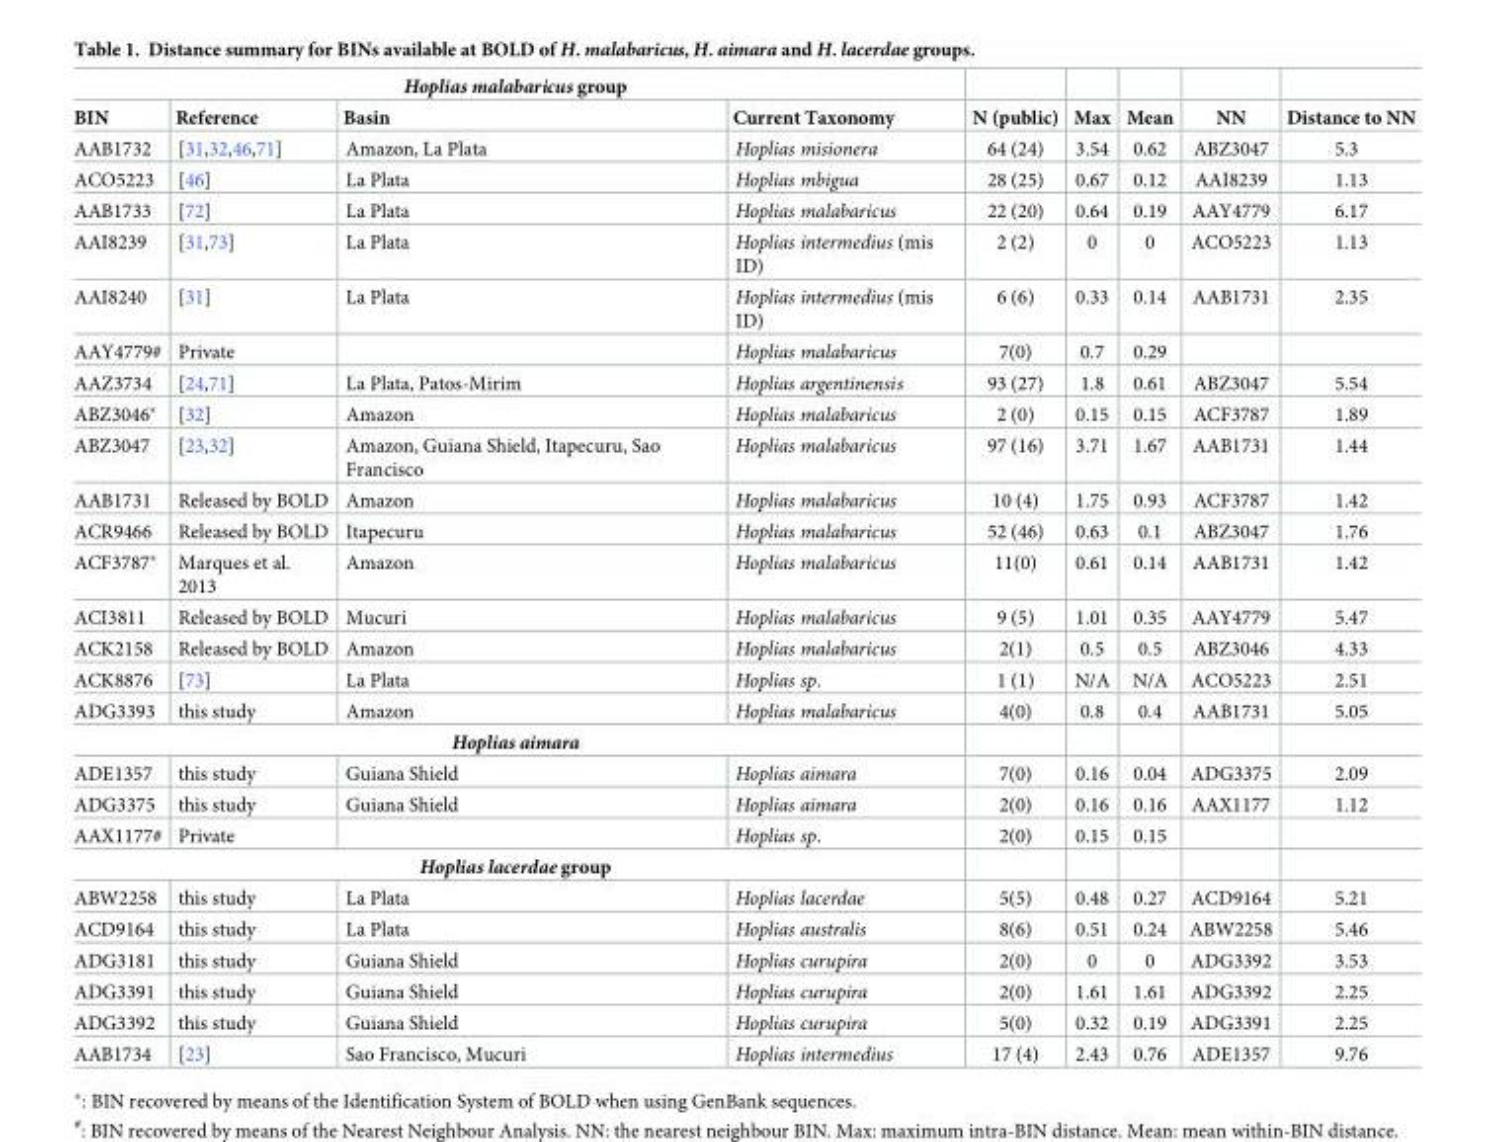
<table><thead><tr><td colspan="4">Hoplias malabaricus group</td><td rowspan="2">N (public)</td><td rowspan="2">Max</td><td rowspan="2">Mean</td><td rowspan="2">NN</td><td rowspan="2">Distance to NN</td></tr><tr><td>BIN</td><td>Reference</td><td>Basin</td><td>Current Taxonomy</td></tr></thead><tbody><tr><td>AAB1732</td><td>[31,32,46,71]</td><td>Amazon, La Plata</td><td>Hoplias misionera</td><td>64 (24)</td><td>3.54</td><td>0.62</td><td>ABZ3047</td><td>5.3</td></tr><tr><td>ACO5223</td><td>[46]</td><td>La Plata</td><td>Hoplias mbigua</td><td>28 (25)</td><td>0.67</td><td>0.12</td><td>AAI8239</td><td>1.13</td></tr><tr><td>AAB1733</td><td>[72]</td><td>La Plata</td><td>Hoplias malabaricus</td><td>22 (20)</td><td>0.64</td><td>0.19</td><td>AAY4779</td><td>6.17</td></tr><tr><td>AAI8239</td><td>[31,73]</td><td>La Plata</td><td>Hoplias intermedius (mis ID)</td><td>2 (2)</td><td>0</td><td>0</td><td>ACO5223</td><td>1.13</td></tr><tr><td>AAI8240</td><td>[31]</td><td>La Plata</td><td>Hoplias intermedius (mis ID)</td><td>6 (6)</td><td>0.33</td><td>0.14</td><td>AAB1731</td><td>2.35</td></tr><tr><td>AAY4779#</td><td>Private</td><td></td><td>Hoplias malabaricus</td><td>7(0)</td><td>0.7</td><td>0.29</td><td></td><td></td></tr><tr><td>AAZ3734</td><td>[24,71]</td><td>La Plata, Patos-Mirim</td><td>Hoplias argentinensis</td><td>93 (27)</td><td>1.8</td><td>0.61</td><td>ABZ3047</td><td>5.54</td></tr><tr><td>ABZ3046*</td><td>[32]</td><td>Amazon</td><td>Hoplias malabaricus</td><td>2 (0)</td><td>0.15</td><td>0.15</td><td>ACF3787</td><td>1.89</td></tr><tr><td>ABZ3047</td><td>[23,32]</td><td>Amazon, Guiana Shield, Itapecuru, Sao Francisco</td><td>Hoplias malabaricus</td><td>97 (16)</td><td>3.71</td><td>1.67</td><td>AAB1731</td><td>1.44</td></tr><tr><td>AAB1731</td><td>Released by BOLD</td><td>Amazon</td><td>Hoplias malabaricus</td><td>10 (4)</td><td>1.75</td><td>0.93</td><td>ACF3787</td><td>1.42</td></tr><tr><td>ACR9466</td><td>Released by BOLD</td><td>Itapecuru</td><td>Hoplias malabaricus</td><td>52 (46)</td><td>0.63</td><td>0.1</td><td>ABZ3047</td><td>1.76</td></tr><tr><td>ACF3787*</td><td>Marques et al. 2013</td><td>Amazon</td><td>Hoplias malabaricus</td><td>11(0)</td><td>0.61</td><td>0.14</td><td>AAB1731</td><td>1.42</td></tr><tr><td>ACI3811</td><td>Released by BOLD</td><td>Mucuri</td><td>Hoplias malabaricus</td><td>9 (5)</td><td>1.01</td><td>0.35</td><td>AAY4779</td><td>5.47</td></tr><tr><td>ACK2158</td><td>Released by BOLD</td><td>Amazon</td><td>Hoplias malabaricus</td><td>2(1)</td><td>0.5</td><td>0.5</td><td>ABZ3046</td><td>4.33</td></tr><tr><td>ACK8876</td><td>[73]</td><td>La Plata</td><td>Hoplias sp.</td><td>1 (1)</td><td>N/A</td><td>N/A</td><td>ACO5223</td><td>2.51</td></tr><tr><td>ADG3393</td><td>this study</td><td>Amazon</td><td>Hoplias malabaricus</td><td>4(0)</td><td>0.8</td><td>0.4</td><td>AAB1731</td><td>5.05</td></tr><tr><td colspan="9">Hoplias aimara</td></tr><tr><td>ADE1357</td><td>this study</td><td>Guiana Shield</td><td>Hoplias aimara</td><td>7(0)</td><td>0.16</td><td>0.04</td><td>ADG3375</td><td>2.09</td></tr><tr><td>ADG3375</td><td>this study</td><td>Guiana Shield</td><td>Hoplias aimara</td><td>2(0)</td><td>0.16</td><td>0.16</td><td>AAX1177</td><td>1.12</td></tr><tr><td>AAX1177#</td><td>Private</td><td></td><td>Hoplias sp.</td><td>2(0)</td><td>0.15</td><td>0.15</td><td></td><td></td></tr><tr><td colspan="9">Hoplias lacerdae group</td></tr><tr><td>ABW2258</td><td>this study</td><td>La Plata</td><td>Hoplias lacerdae</td><td>5(5)</td><td>0.48</td><td>0.27</td><td>ACD9164</td><td>5.21</td></tr><tr><td>ACD9164</td><td>this study</td><td>La Plata</td><td>Hoplias australis</td><td>8(6)</td><td>0.51</td><td>0.24</td><td>ABW2258</td><td>5.46</td></tr><tr><td>ADG3181</td><td>this study</td><td>Guiana Shield</td><td>Hoplias curupira</td><td>2(0)</td><td>0</td><td>0</td><td>ADG3392</td><td>3.53</td></tr><tr><td>ADG3391</td><td>this study</td><td>Guiana Shield</td><td>Hoplias curupira</td><td>2(0)</td><td>1.61</td><td>1.61</td><td>ADG3392</td><td>2.25</td></tr><tr><td>ADG3392</td><td>this study</td><td>Guiana Shield</td><td>Hoplias curupira</td><td>5(0)</td><td>0.32</td><td>0.19</td><td>ADG3391</td><td>2.25</td></tr><tr><td>AAB1734</td><td>[23]</td><td>Sao Francisco, Mucuri</td><td>Hoplias intermedius</td><td>17 (4)</td><td>2.43</td><td>0.76</td><td>ADE1357</td><td>9.76</td></tr></tbody></table>